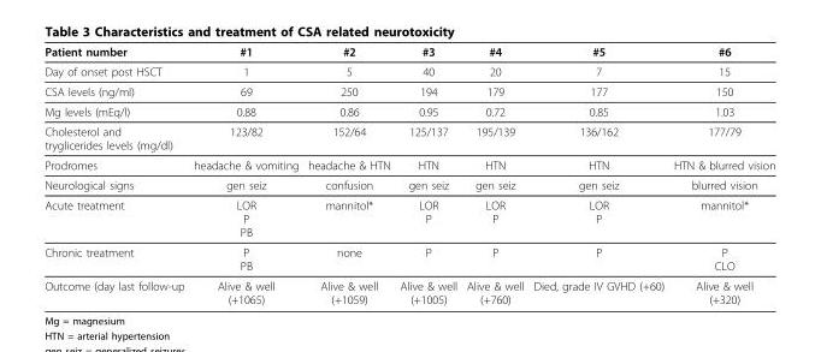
<table><thead><tr><td>Patient number</td><td>#1</td><td>#2</td><td>#3</td><td>#4</td><td>#5</td><td>#6</td></tr></thead><tbody><tr><td>Day of onset post HSCT</td><td>1</td><td>5</td><td>40</td><td>20</td><td>7</td><td>15</td></tr><tr><td>CSA levels (ng/ml)</td><td>69</td><td>250</td><td>194</td><td>179</td><td>177</td><td>150</td></tr><tr><td>Mg levels (mEq/l)</td><td>0.88</td><td>0.86</td><td>0.95</td><td>0.72</td><td>0.85</td><td>1.03</td></tr><tr><td>Cholesterol and tryglicerides levels (mg/dl)</td><td>123/82</td><td>152/64</td><td>125/137</td><td>195/139</td><td>136/162</td><td>177/79</td></tr><tr><td>Prodromes</td><td>headache &amp; vomiting</td><td>headache &amp; HTN</td><td>HTN</td><td>HTN</td><td>HTN</td><td>HTN &amp; blurred vision</td></tr><tr><td>Neurological signs</td><td>gen seiz</td><td>confusion</td><td>gen seiz</td><td>gen seiz</td><td>gen seiz</td><td>blurred vision</td></tr><tr><td>Acute treatment</td><td>LOR P PB</td><td>mannitol*</td><td>LOR P</td><td>LOR P</td><td>LOR P</td><td>mannitol*</td></tr><tr><td>Chronic treatment</td><td>P PB</td><td>none</td><td>P</td><td>P</td><td>P</td><td>P CLO</td></tr><tr><td>Outcome (day last follow-up</td><td>Alive &amp; well (+1065)</td><td>Alive &amp; well (+1059)</td><td>Alive &amp; well (+1005)</td><td>Alive &amp; well (+760)</td><td>Died, grade IV GVHD (+60)</td><td>Alive &amp; well (+320)</td></tr></tbody></table>